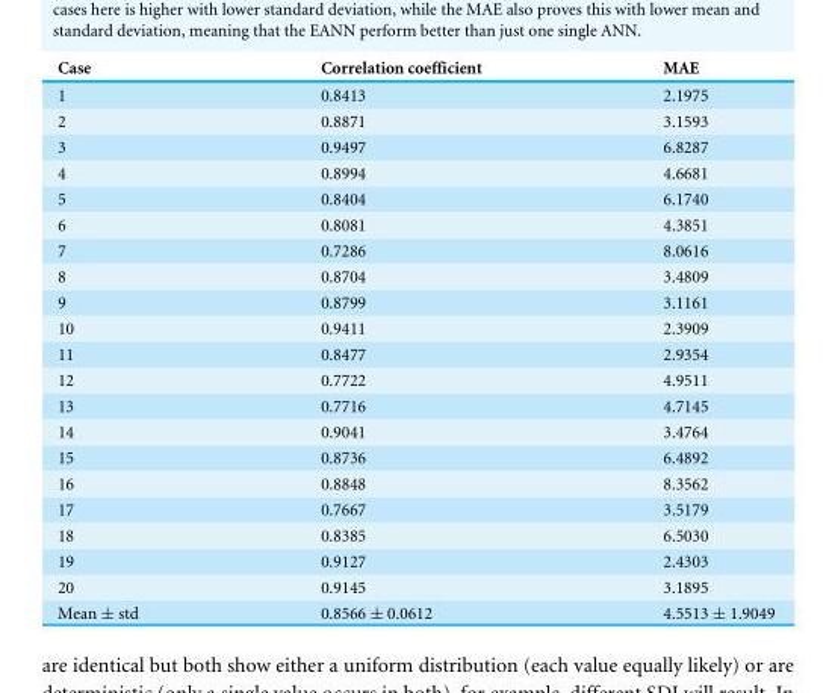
<table><thead><tr><td>Case</td><td>Correlation coefficient</td><td>MAE</td></tr></thead><tbody><tr><td>1</td><td>0.8413</td><td>2.1975</td></tr><tr><td>2</td><td>0.8871</td><td>3.1593</td></tr><tr><td>3</td><td>0.9497</td><td>6.8287</td></tr><tr><td>4</td><td>0.8994</td><td>4.6681</td></tr><tr><td>5</td><td>0.8404</td><td>6.1740</td></tr><tr><td>6</td><td>0.8081</td><td>4.3851</td></tr><tr><td>7</td><td>0.7286</td><td>8.0616</td></tr><tr><td>8</td><td>0.8704</td><td>3.4809</td></tr><tr><td>9</td><td>0.8799</td><td>3.1161</td></tr><tr><td>10</td><td>0.9411</td><td>2.3909</td></tr><tr><td>11</td><td>0.8477</td><td>2.9354</td></tr><tr><td>12</td><td>0.7722</td><td>4.9511</td></tr><tr><td>13</td><td>0.7716</td><td>4.7145</td></tr><tr><td>14</td><td>0.9041</td><td>3.4764</td></tr><tr><td>15</td><td>0.8736</td><td>6.4892</td></tr><tr><td>16</td><td>0.8848</td><td>8.3562</td></tr><tr><td>17</td><td>0.7667</td><td>3.5179</td></tr><tr><td>18</td><td>0.8385</td><td>6.5030</td></tr><tr><td>19</td><td>0.9127</td><td>2.4303</td></tr><tr><td>20</td><td>0.9145</td><td>3.1895</td></tr><tr><td>Mean ± std</td><td>0.8566 ± 0.0612</td><td>4.5513 ± 1.9049</td></tr></tbody></table>